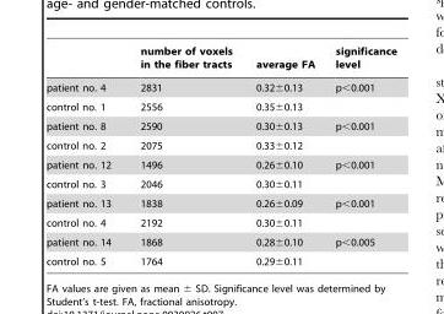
<table><thead><tr><td></td><td>number of voxels in the fiber tracts</td><td>average FA</td><td>significance level</td></tr></thead><tbody><tr><td>patient no. 4</td><td>2831</td><td>0.32±0.13</td><td>p&lt;0.001</td></tr><tr><td>control no. 1</td><td>2556</td><td>0.35±0.13</td><td></td></tr><tr><td>patient no. 8</td><td>2590</td><td>0.30±0.13</td><td>p&lt;0.001</td></tr><tr><td>control no. 2</td><td>2075</td><td>0.33±0.12</td><td></td></tr><tr><td>patient no. 12</td><td>1496</td><td>0.26±0.10</td><td>p&lt;0.001</td></tr><tr><td>control no. 3</td><td>2046</td><td>0.30±0.11</td><td></td></tr><tr><td>patient no. 13</td><td>1838</td><td>0.26±0.09</td><td>p&lt;0.001</td></tr><tr><td>control no. 4</td><td>2192</td><td>0.30±0.11</td><td></td></tr><tr><td>patient no. 14</td><td>1868</td><td>0.28±0.10</td><td>p&lt;0.005</td></tr><tr><td>control no. 5</td><td>1764</td><td>0.29±0.11</td><td></td></tr></tbody></table>